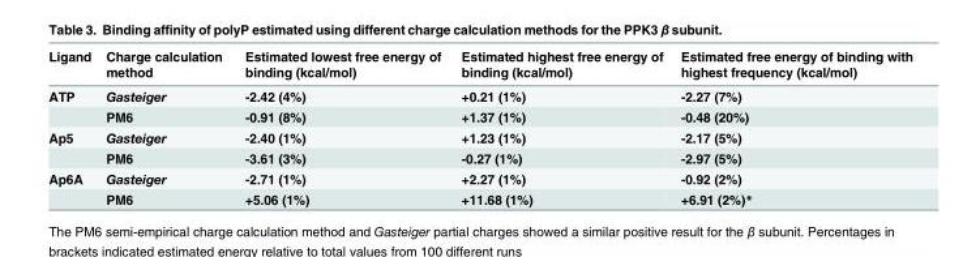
<table><thead><tr><td>Ligand</td><td>Charge calculation method</td><td>Estimated lowest free energy of binding (kcal/mol)</td><td>Estimated highest free energy of binding (kcal/mol)</td><td>Estimated free energy of binding with highest frequency (kcal/mol)</td></tr></thead><tbody><tr><td rowspan="2">ATP</td><td>Gasteiger</td><td>-2.42 (4%)</td><td>+0.21 (1%)</td><td>-2.27 (7%)</td></tr><tr><td>PM6</td><td>-0.91 (8%)</td><td>+1.37 (1%)</td><td>-0.48 (20%)</td></tr><tr><td rowspan="2">Ap5</td><td>Gasteiger</td><td>-2.40 (1%)</td><td>+1.23 (1%)</td><td>-2.17 (5%)</td></tr><tr><td>PM6</td><td>-3.61 (3%)</td><td>-0.27 (1%)</td><td>-2.97 (5%)</td></tr><tr><td rowspan="2">Ap6A</td><td>Gasteiger</td><td>-2.71 (1%)</td><td>+2.27 (1%)</td><td>-0.92 (2%)</td></tr><tr><td>PM6</td><td>+5.06 (1%)</td><td>+11.68 (1%)</td><td>+6.91 (2%)*</td></tr></tbody></table>